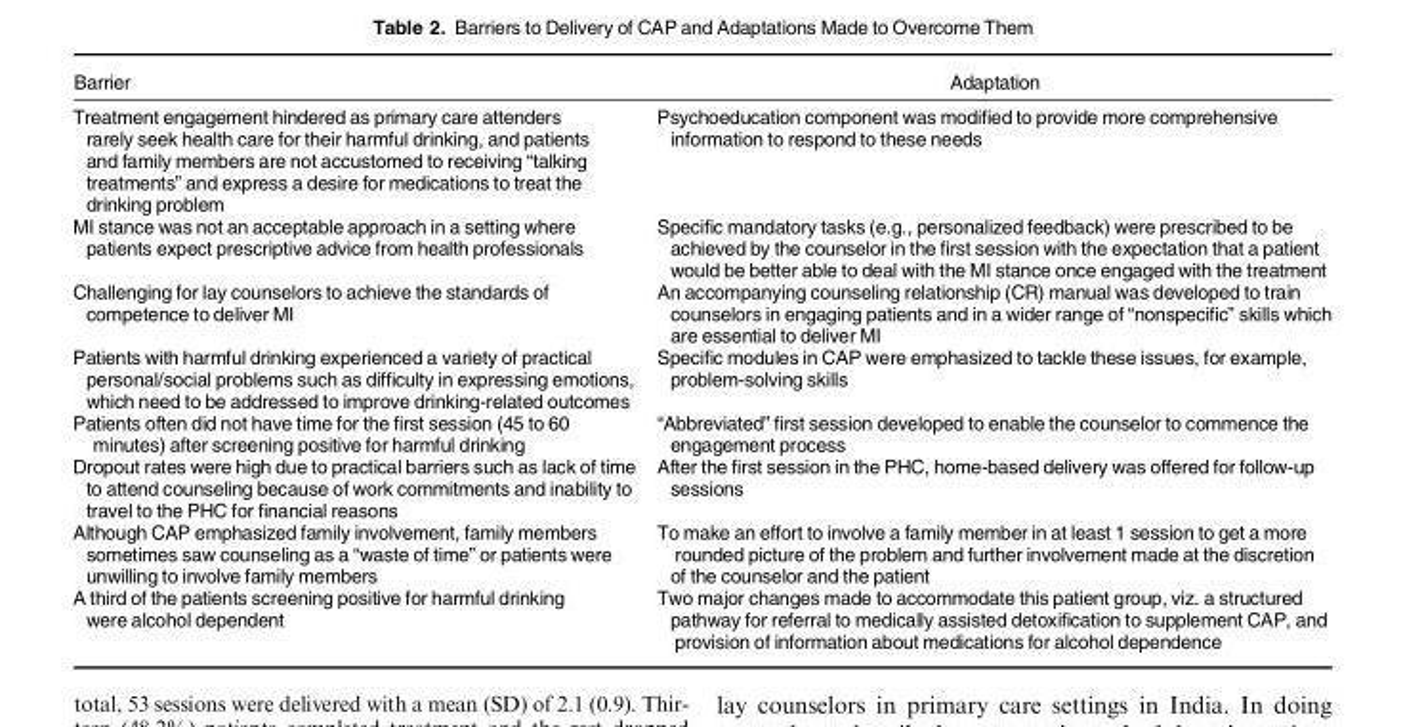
<table><thead><tr><td>Barrier</td><td>Adaptation</td></tr></thead><tbody><tr><td>Treatment engagement hindered as primary care attenders rarely seek health care for their harmful drinking, and patients and family members are not accustomed to receiving “talking treatments” and express a desire for medications to treat the drinking problem</td><td>Psychoeducation component was modified to provide more comprehensive information to respond to these needs</td></tr><tr><td>MI stance was not an acceptable approach in a setting where patients expect prescriptive advice from health professionals</td><td>Specific mandatory tasks (e.g., personalized feedback) were prescribed to be achieved by the counselor in the first session with the expectation that a patient would be better able to deal with the MI stance once engaged with the treatment</td></tr><tr><td>Challenging for lay counselors to achieve the standards of competence to deliver MI</td><td>An accompanying counseling relationship (CR) manual was developed to train counselors in engaging patients and in a wider range of “nonspecific” skills which are essential to deliver MI</td></tr><tr><td>Patients with harmful drinking experienced a variety of practical personal/social problems such as difficulty in expressing emotions, which need to be addressed to improve drinking-related outcomes</td><td>Specific modules in CAP were emphasized to tackle these issues, for example, problem-solving skills</td></tr><tr><td>Patients often did not have time for the first session (45 to 60 minutes) after screening positive for harmful drinking</td><td>“Abbreviated” first session developed to enable the counselor to commence the engagement process</td></tr><tr><td>Dropout rates were high due to practical barriers such as lack of time to attend counseling because of work commitments and inability to travel to the PHC for financial reasons</td><td>After the first session in the PHC, home-based delivery was offered for follow-up sessions</td></tr><tr><td>Although CAP emphasized family involvement, family members sometimes saw counseling as a “waste of time” or patients were unwilling to involve family members</td><td>To make an effort to involve a family member in at least 1 session to get a more rounded picture of the problem and further involvement made at the discretion of the counselor and the patient</td></tr><tr><td>A third of the patients screening positive for harmful drinking were alcohol dependent</td><td>Two major changes made to accommodate this patient group, viz. a structured pathway for referral to medically assisted detoxification to supplement CAP, and provision of information about medications for alcohol dependence</td></tr></tbody></table>